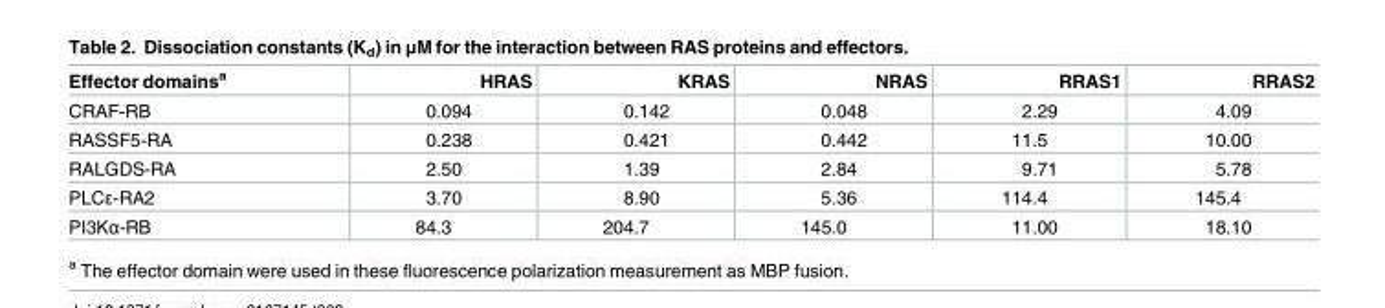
<table><thead><tr><td>Effector domains<sup>a</sup></td><td>HRAS</td><td>KRAS</td><td>NRAS</td><td>RRAS1</td><td>RRAS2</td></tr></thead><tbody><tr><td>CRAF-RB</td><td>0.094</td><td>0.142</td><td>0.048</td><td>2.29</td><td>4.09</td></tr><tr><td>RASSF5-RA</td><td>0.238</td><td>0.421</td><td>0.442</td><td>11.5</td><td>10.00</td></tr><tr><td>RALGDS-RA</td><td>2.50</td><td>1.39</td><td>2.84</td><td>9.71</td><td>5.78</td></tr><tr><td>PLCε-RA2</td><td>3.70</td><td>8.90</td><td>5.36</td><td>114.4</td><td>145.4</td></tr><tr><td>PI3Kα-RB</td><td>84.3</td><td>204.7</td><td>145.0</td><td>11.00</td><td>18.10</td></tr></tbody></table>